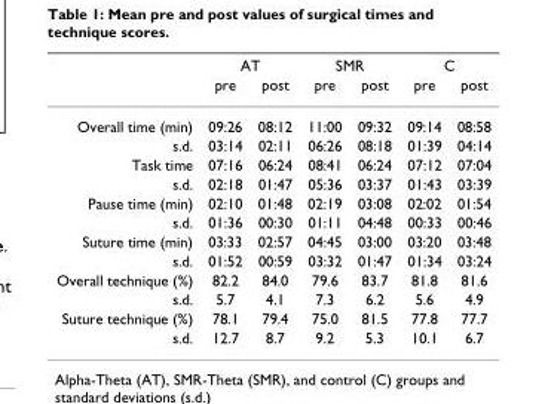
<table><thead><tr><td rowspan="2"></td><td colspan="2">AT</td><td colspan="2">SMR</td><td colspan="2">C</td></tr><tr><td>pre</td><td>post</td><td>pre</td><td>post</td><td>pre</td><td>post</td></tr></thead><tbody><tr><td>Overall time (min)</td><td>09:26</td><td>08:12</td><td>11:00</td><td>09:32</td><td>09:14</td><td>08:58</td></tr><tr><td>s.d.</td><td>03:14</td><td>02:11</td><td>06:26</td><td>08:18</td><td>01:39</td><td>04:14</td></tr><tr><td>Task time</td><td>07:16</td><td>06:24</td><td>08:41</td><td>06:24</td><td>07:12</td><td>07:04</td></tr><tr><td>s.d.</td><td>02:18</td><td>01:47</td><td>05:36</td><td>03:37</td><td>01:43</td><td>03:39</td></tr><tr><td>Pause time (min)</td><td>02:10</td><td>01:48</td><td>02:19</td><td>03:08</td><td>02:02</td><td>01:54</td></tr><tr><td>s.d.</td><td>01:36</td><td>00:30</td><td>01:11</td><td>04:48</td><td>00:33</td><td>00:46</td></tr><tr><td>Suture time (min)</td><td>03:33</td><td>02:57</td><td>04:45</td><td>03:00</td><td>03:20</td><td>03:48</td></tr><tr><td>s.d.</td><td>01:52</td><td>00:59</td><td>03:32</td><td>01:47</td><td>01:34</td><td>03:24</td></tr><tr><td>Overall technique (%)</td><td>82.2</td><td>84.0</td><td>79.6</td><td>83.7</td><td>81.8</td><td>81.6</td></tr><tr><td>s.d.</td><td>5.7</td><td>4.1</td><td>7.3</td><td>6.2</td><td>5.6</td><td>4.9</td></tr><tr><td>Suture technique (%)</td><td>78.1</td><td>79.4</td><td>75.0</td><td>81.5</td><td>77.8</td><td>77.7</td></tr><tr><td>s.d.</td><td>12.7</td><td>8.7</td><td>9.2</td><td>5.3</td><td>10.1</td><td>6.7</td></tr></tbody></table>